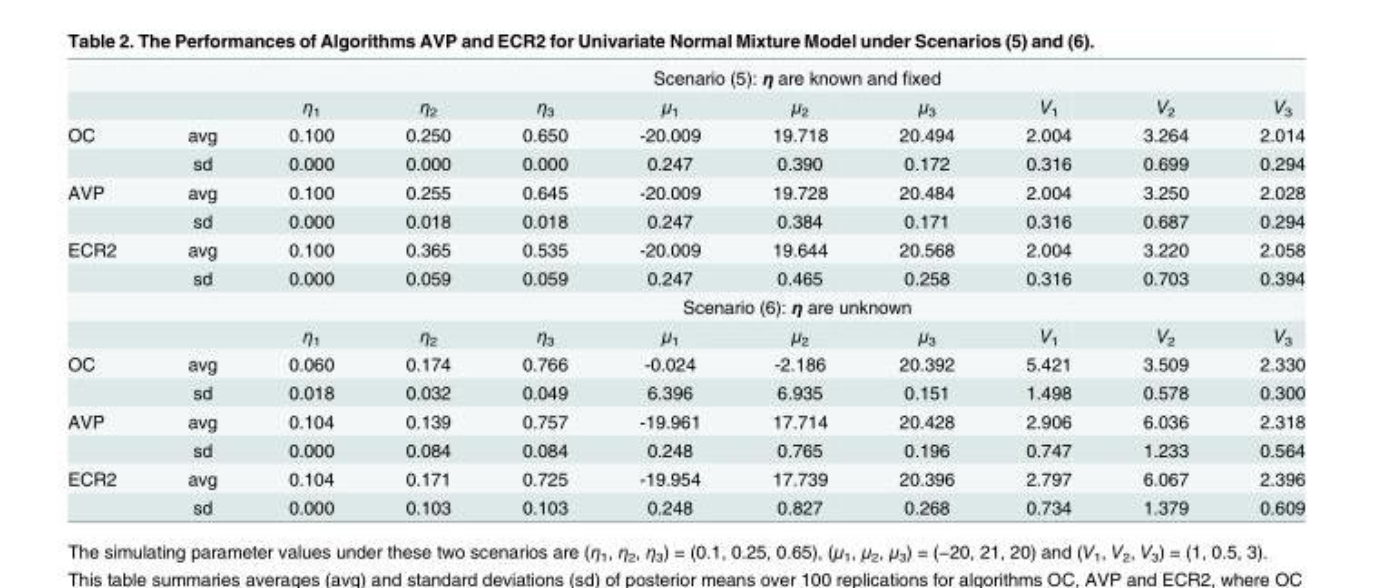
<table><thead><tr><td rowspan="2"></td><td rowspan="2"></td><td colspan="9">Scenario (5): η are known and fixed</td></tr><tr><td>η<sub>1</sub></td><td>η<sub>2</sub></td><td>η<sub>3</sub></td><td>μ<sub>1</sub></td><td>μ<sub>2</sub></td><td>μ<sub>3</sub></td><td>V<sub>1</sub></td><td>V<sub>2</sub></td><td>V<sub>3</sub></td></tr></thead><tbody><tr><td rowspan="2">OC</td><td>avg</td><td>0.100</td><td>0.250</td><td>0.650</td><td>-20.009</td><td>19.718</td><td>20.494</td><td>2.004</td><td>3.264</td><td>2.014</td></tr><tr><td>sd</td><td>0.000</td><td>0.000</td><td>0.000</td><td>0.247</td><td>0.390</td><td>0.172</td><td>0.316</td><td>0.699</td><td>0.294</td></tr><tr><td rowspan="2">AVP</td><td>avg</td><td>0.100</td><td>0.255</td><td>0.645</td><td>-20.009</td><td>19.728</td><td>20.484</td><td>2.004</td><td>3.250</td><td>2.028</td></tr><tr><td>sd</td><td>0.000</td><td>0.018</td><td>0.018</td><td>0.247</td><td>0.384</td><td>0.171</td><td>0.316</td><td>0.687</td><td>0.294</td></tr><tr><td rowspan="4">ECR2</td><td>avg</td><td>0.100</td><td>0.365</td><td>0.535</td><td>-20.009</td><td>19.644</td><td>20.568</td><td>2.004</td><td>3.220</td><td>2.058</td></tr><tr><td>sd</td><td>0.000</td><td>0.059</td><td>0.059</td><td>0.247</td><td>0.465</td><td>0.258</td><td>0.316</td><td>0.703</td><td>0.394</td></tr><tr><td></td><td colspan="9">Scenario (6): η are unknown</td></tr><tr><td></td><td>η<sub>1</sub></td><td>η<sub>2</sub></td><td>η<sub>3</sub></td><td>μ<sub>1</sub></td><td>μ<sub>2</sub></td><td>μ<sub>3</sub></td><td>V<sub>1</sub></td><td>V<sub>2</sub></td><td>V<sub>3</sub></td></tr><tr><td rowspan="2">OC</td><td>avg</td><td>0.060</td><td>0.174</td><td>0.766</td><td>-0.024</td><td>-2.186</td><td>20.392</td><td>5.421</td><td>3.509</td><td>2.330</td></tr><tr><td>sd</td><td>0.018</td><td>0.032</td><td>0.049</td><td>6.396</td><td>6.935</td><td>0.151</td><td>1.498</td><td>0.578</td><td>0.300</td></tr><tr><td rowspan="2">AVP</td><td>avg</td><td>0.104</td><td>0.139</td><td>0.757</td><td>-19.961</td><td>17.714</td><td>20.428</td><td>2.906</td><td>6.036</td><td>2.318</td></tr><tr><td>sd</td><td>0.000</td><td>0.084</td><td>0.084</td><td>0.248</td><td>0.765</td><td>0.196</td><td>0.747</td><td>1.233</td><td>0.564</td></tr><tr><td rowspan="2">ECR2</td><td>avg</td><td>0.104</td><td>0.171</td><td>0.725</td><td>-19.954</td><td>17.739</td><td>20.396</td><td>2.797</td><td>6.067</td><td>2.396</td></tr><tr><td>sd</td><td>0.000</td><td>0.103</td><td>0.103</td><td>0.248</td><td>0.827</td><td>0.268</td><td>0.734</td><td>1.379</td><td>0.609</td></tr></tbody></table>